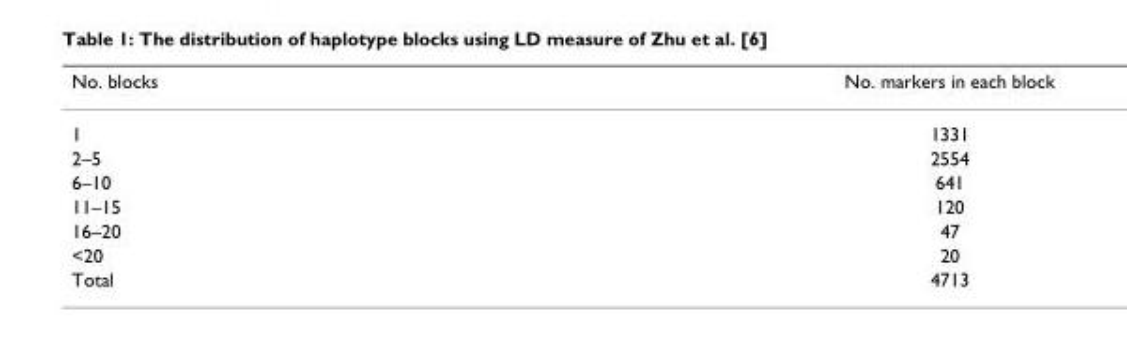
<table><thead><tr><td>No. blocks</td><td>No. markers in each block</td></tr></thead><tbody><tr><td>1</td><td>1331</td></tr><tr><td>2–5</td><td>2554</td></tr><tr><td>6–10</td><td>641</td></tr><tr><td>11–15</td><td>120</td></tr><tr><td>16–20</td><td>47</td></tr><tr><td>&lt;20</td><td>20</td></tr><tr><td>Total</td><td>4713</td></tr></tbody></table>